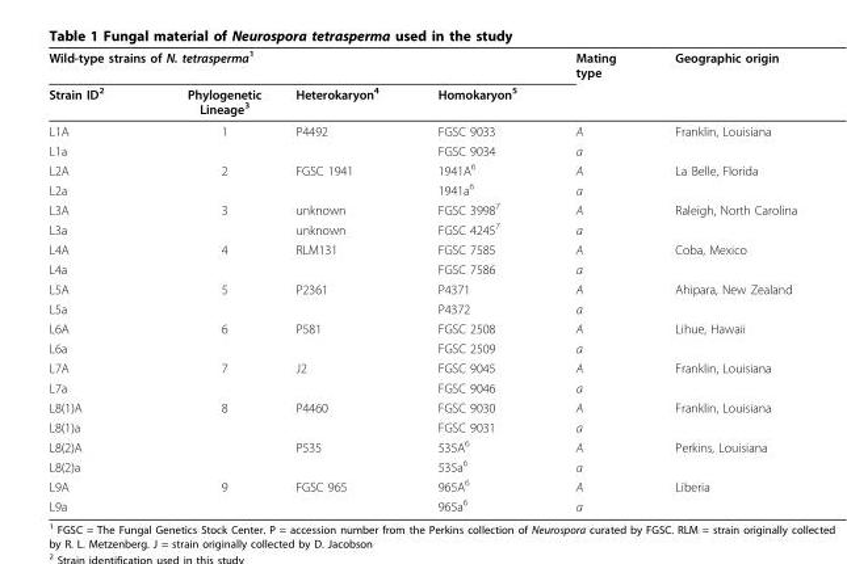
<table><thead><tr><td colspan="4">Wild-type strains of N. tetrasperma<sup>1</sup></td><td rowspan="2">Mating type</td><td rowspan="2">Geographic origin</td></tr><tr><td>Strain ID<sup>2</sup></td><td>Phylogenetic Lineage<sup>3</sup></td><td>Heterokaryon<sup>4</sup></td><td>Homokaryon<sup>5</sup></td></tr></thead><tbody><tr><td>L1A</td><td>1</td><td>P4492</td><td>FGSC 9033</td><td>A</td><td>Franklin, Louisiana</td></tr><tr><td>L1a</td><td></td><td></td><td>FGSC 9034</td><td>a</td><td></td></tr><tr><td>L2A</td><td>2</td><td>FGSC 1941</td><td>1941A<sup>6</sup></td><td>A</td><td>La Belle, Florida</td></tr><tr><td>L2a</td><td></td><td></td><td>1941a<sup>6</sup></td><td>a</td><td></td></tr><tr><td>L3A</td><td>3</td><td>unknown</td><td>FGSC 3998<sup>7</sup></td><td>A</td><td>Raleigh, North Carolina</td></tr><tr><td>L3a</td><td></td><td>unknown</td><td>FGSC 4245<sup>7</sup></td><td>a</td><td></td></tr><tr><td>L4A</td><td>4</td><td>RLM131</td><td>FGSC 7585</td><td>A</td><td>Coba, Mexico</td></tr><tr><td>L4a</td><td></td><td></td><td>FGSC 7586</td><td>a</td><td></td></tr><tr><td>L5A</td><td>5</td><td>P2361</td><td>P4371</td><td>A</td><td>Ahipara, New Zealand</td></tr><tr><td>L5a</td><td></td><td></td><td>P4372</td><td>a</td><td></td></tr><tr><td>L6A</td><td>6</td><td>P581</td><td>FGSC 2508</td><td>A</td><td>Lihue, Hawaii</td></tr><tr><td>L6a</td><td></td><td></td><td>FGSC 2509</td><td>a</td><td></td></tr><tr><td>L7A</td><td>7</td><td>J2</td><td>FGSC 9045</td><td>A</td><td>Franklin, Louisiana</td></tr><tr><td>L7a</td><td></td><td></td><td>FGSC 9046</td><td>a</td><td></td></tr><tr><td>L8(1)A</td><td>8</td><td>P4460</td><td>FGSC 9030</td><td>A</td><td>Franklin, Louisiana</td></tr><tr><td>L8(1)a</td><td></td><td></td><td>FGSC 9031</td><td>a</td><td></td></tr><tr><td>L8(2)A</td><td></td><td>P535</td><td>535A<sup>6</sup></td><td>A</td><td>Perkins, Louisiana</td></tr><tr><td>L8(2)a</td><td></td><td></td><td>535a<sup>6</sup></td><td>a</td><td></td></tr><tr><td>L9A</td><td>9</td><td>FGSC 965</td><td>965A<sup>6</sup></td><td>A</td><td>Liberia</td></tr><tr><td>L9a</td><td></td><td></td><td>965a<sup>6</sup></td><td>a</td><td></td></tr></tbody></table>